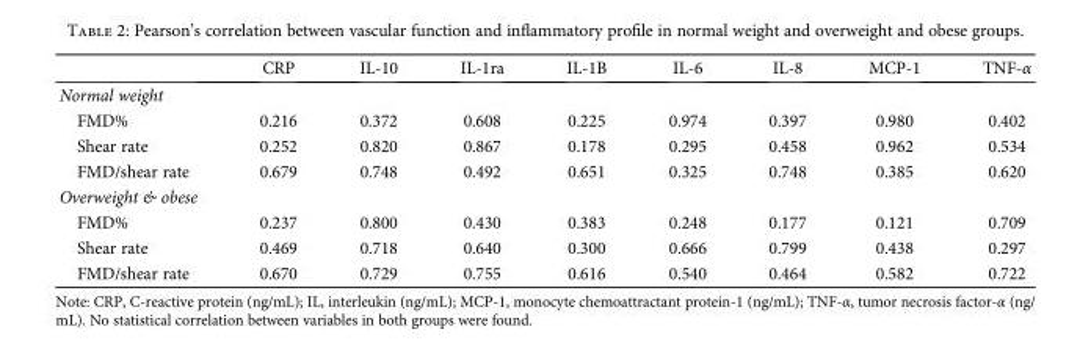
<table><thead><tr><td></td><td>CRP</td><td>IL-10</td><td>IL-1ra</td><td>IL-1B</td><td>IL-6</td><td>IL-8</td><td>MCP-1</td><td>TNF-α</td></tr></thead><tbody><tr><td colspan="9">Normal weight</td></tr><tr><td>FMD%</td><td>0.216</td><td>0.372</td><td>0.608</td><td>0.225</td><td>0.974</td><td>0.397</td><td>0.980</td><td>0.402</td></tr><tr><td>Shear rate</td><td>0.252</td><td>0.820</td><td>0.867</td><td>0.178</td><td>0.295</td><td>0.458</td><td>0.962</td><td>0.534</td></tr><tr><td>FMD/shear rate</td><td>0.679</td><td>0.748</td><td>0.492</td><td>0.651</td><td>0.325</td><td>0.748</td><td>0.385</td><td>0.620</td></tr><tr><td colspan="9">Overweight &amp; obese</td></tr><tr><td>FMD%</td><td>0.237</td><td>0.800</td><td>0.430</td><td>0.383</td><td>0.248</td><td>0.177</td><td>0.121</td><td>0.709</td></tr><tr><td>Shear rate</td><td>0.469</td><td>0.718</td><td>0.640</td><td>0.300</td><td>0.666</td><td>0.799</td><td>0.438</td><td>0.297</td></tr><tr><td>FMD/shear rate</td><td>0.670</td><td>0.729</td><td>0.755</td><td>0.616</td><td>0.540</td><td>0.464</td><td>0.582</td><td>0.722</td></tr></tbody></table>